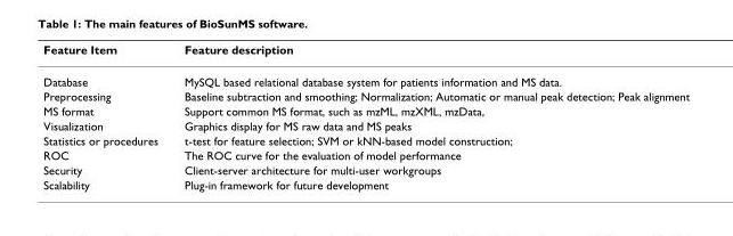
<table><thead><tr><td>Feature Item</td><td>Feature description</td></tr></thead><tbody><tr><td>Database</td><td>MySQL based relational database system for patients information and MS data.</td></tr><tr><td>Preprocessing</td><td>Baseline subtraction and smoothing; Normalization; Automatic or manual peak detection; Peak alignment</td></tr><tr><td>MS format</td><td>Support common MS format, such as mzML, mzXML, mzData,</td></tr><tr><td>Visualization</td><td>Graphics display for MS raw data and MS peaks</td></tr><tr><td>Statistics or procedures</td><td>t-test for feature selection; SVM or kNN-based model construction;</td></tr><tr><td>ROC</td><td>The ROC curve for the evaluation of model performance</td></tr><tr><td>Security</td><td>Client-server architecture for multi-user workgroups</td></tr><tr><td>Scalability</td><td>Plug-in framework for future development</td></tr></tbody></table>